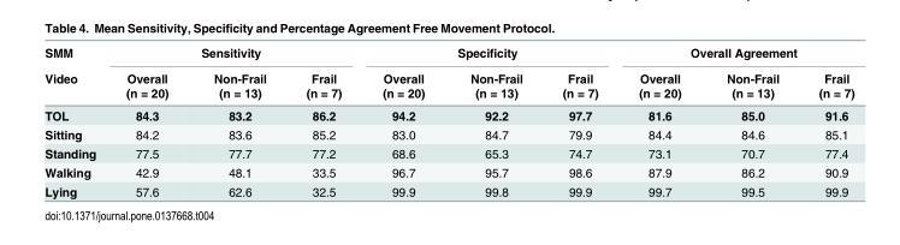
<table><thead><tr><td rowspan="2">SMM Video</td><td colspan="3">Sensitivity</td><td colspan="3">Specificity</td><td colspan="3">Overall Agreement</td></tr><tr><td>Overall (n = 20)</td><td>Non-Frail (n = 13)</td><td>Frail (n = 7)</td><td>Overall (n = 20)</td><td>Non-Frail (n = 13)</td><td>Frail (n = 7)</td><td>Overall (n = 20)</td><td>Non-Frail (n = 13)</td><td>Frail (n = 7)</td></tr></thead><tbody><tr><td>TOL</td><td>84.3</td><td>83.2</td><td>86.2</td><td>94.2</td><td>92.2</td><td>97.7</td><td>81.6</td><td>85.0</td><td>91.6</td></tr><tr><td>Sitting</td><td>84.2</td><td>83.6</td><td>85.2</td><td>83.0</td><td>84.7</td><td>79.9</td><td>84.4</td><td>84.6</td><td>85.1</td></tr><tr><td>Standing</td><td>77.5</td><td>77.7</td><td>77.2</td><td>68.6</td><td>65.3</td><td>74.7</td><td>73.1</td><td>70.7</td><td>77.4</td></tr><tr><td>Walking</td><td>42.9</td><td>48.1</td><td>33.5</td><td>96.7</td><td>95.7</td><td>98.6</td><td>87.9</td><td>86.2</td><td>90.9</td></tr><tr><td>Lying</td><td>57.6</td><td>62.6</td><td>32.5</td><td>99.9</td><td>99.8</td><td>99.9</td><td>99.7</td><td>99.5</td><td>99.9</td></tr></tbody></table>